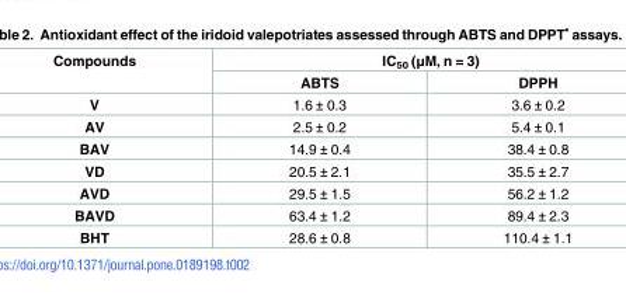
<table><thead><tr><td rowspan="2">Compounds</td><td colspan="2">IC<sub>50</sub> (μM, n = 3)</td></tr><tr><td>ABTS</td><td>DPPH</td></tr></thead><tbody><tr><td>V</td><td>1.6 ± 0.3</td><td>3.6 ± 0.2</td></tr><tr><td>AV</td><td>2.5 ± 0.2</td><td>5.4 ± 0.1</td></tr><tr><td>BAV</td><td>14.9 ± 0.4</td><td>38.4 ± 0.8</td></tr><tr><td>VD</td><td>20.5 ± 2.1</td><td>35.5 ± 2.7</td></tr><tr><td>AVD</td><td>29.5 ± 1.5</td><td>56.2 ± 1.2</td></tr><tr><td>BAVD</td><td>63.4 ± 1.2</td><td>89.4 ± 2.3</td></tr><tr><td>BHT</td><td>28.6 ± 0.8</td><td>110.4 ± 1.1</td></tr></tbody></table>